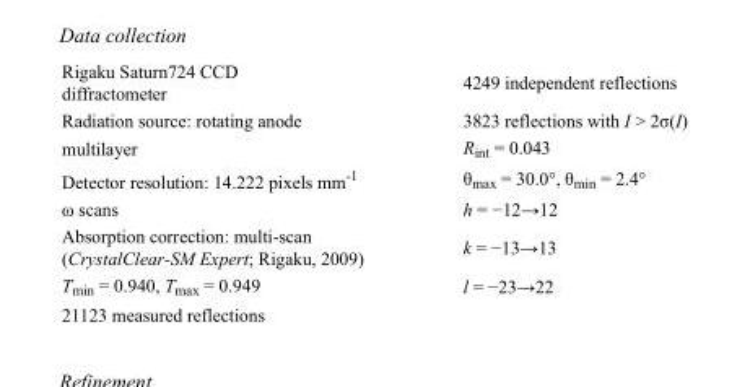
<table><tbody><tr><td>Rigaku Saturn724 CCD diffractometer</td><td>4249 independent reflections</td></tr><tr><td>Radiation source: rotating anode</td><td>3823 reflections with I &gt; 2σ(I)</td></tr><tr><td>multilayer</td><td>R<sub>int</sub> = 0.043</td></tr><tr><td>Detector resolution: 14.222 pixels mm<sup>-1</sup></td><td>θ<sub>max</sub> = 30.0°, θ<sub>min</sub> = 2.4°</td></tr><tr><td>ω scans</td><td>h = −12→12</td></tr><tr><td>Absorption correction: multi-scan (CrystalClear-SM Expert; Rigaku, 2009)</td><td>k = −13→13</td></tr><tr><td>T<sub>min</sub> = 0.940, T<sub>max</sub> = 0.949</td><td>l = −23→22</td></tr><tr><td>21123 measured reflections</td><td></td></tr></tbody></table>